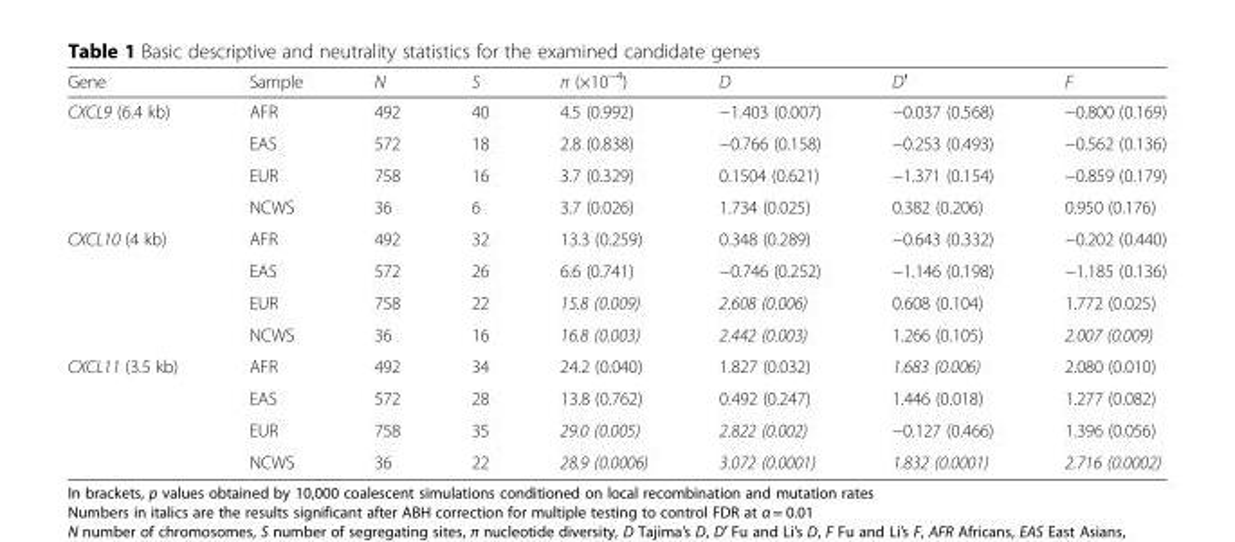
<table><thead><tr><td>Gene</td><td>Sample</td><td>N</td><td>S</td><td>π (×10<sup>−4</sup>)</td><td>D</td><td>D′</td><td>F</td></tr></thead><tbody><tr><td rowspan="4">CXCL9 (6.4 kb)</td><td>AFR</td><td>492</td><td>40</td><td>4.5 (0.992)</td><td>−1.403 (0.007)</td><td>−0.037 (0.568)</td><td>−0.800 (0.169)</td></tr><tr><td>EAS</td><td>572</td><td>18</td><td>2.8 (0.838)</td><td>−0.766 (0.158)</td><td>−0.253 (0.493)</td><td>−0.562 (0.136)</td></tr><tr><td>EUR</td><td>758</td><td>16</td><td>3.7 (0.329)</td><td>0.1504 (0.621)</td><td>−1.371 (0.154)</td><td>−0.859 (0.179)</td></tr><tr><td>NCWS</td><td>36</td><td>6</td><td>3.7 (0.026)</td><td>1.734 (0.025)</td><td>0.382 (0.206)</td><td>0.950 (0.176)</td></tr><tr><td rowspan="4">CXCL10 (4 kb)</td><td>AFR</td><td>492</td><td>32</td><td>13.3 (0.259)</td><td>0.348 (0.289)</td><td>−0.643 (0.332)</td><td>−0.202 (0.440)</td></tr><tr><td>EAS</td><td>572</td><td>26</td><td>6.6 (0.741)</td><td>−0.746 (0.252)</td><td>−1.146 (0.198)</td><td>−1.185 (0.136)</td></tr><tr><td>EUR</td><td>758</td><td>22</td><td>15.8 (0.009)</td><td>2.608 (0.006)</td><td>0.608 (0.104)</td><td>1.772 (0.025)</td></tr><tr><td>NCWS</td><td>36</td><td>16</td><td>16.8 (0.003)</td><td>2.442 (0.003)</td><td>1.266 (0.105)</td><td>2.007 (0.009)</td></tr><tr><td rowspan="4">CXCL11 (3.5 kb)</td><td>AFR</td><td>492</td><td>34</td><td>24.2 (0.040)</td><td>1.827 (0.032)</td><td>1.683 (0.006)</td><td>2.080 (0.010)</td></tr><tr><td>EAS</td><td>572</td><td>28</td><td>13.8 (0.762)</td><td>0.492 (0.247)</td><td>1.446 (0.018)</td><td>1.277 (0.082)</td></tr><tr><td>EUR</td><td>758</td><td>35</td><td>29.0 (0.005)</td><td>2.822 (0.002)</td><td>−0.127 (0.466)</td><td>1.396 (0.056)</td></tr><tr><td>NCWS</td><td>36</td><td>22</td><td>28.9 (0.0006)</td><td>3.072 (0.0001)</td><td>1.832 (0.0001)</td><td>2.716 (0.0002)</td></tr></tbody></table>